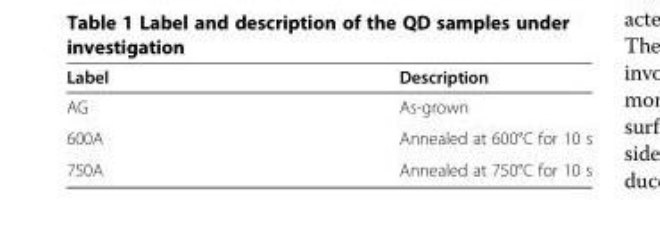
<table><thead><tr><td>Label</td><td>Description</td></tr></thead><tbody><tr><td>AG</td><td>As-grown</td></tr><tr><td>600A</td><td>Annealed at 600°C for 10 s</td></tr><tr><td>750A</td><td>Annealed at 750°C for 10 s</td></tr></tbody></table>